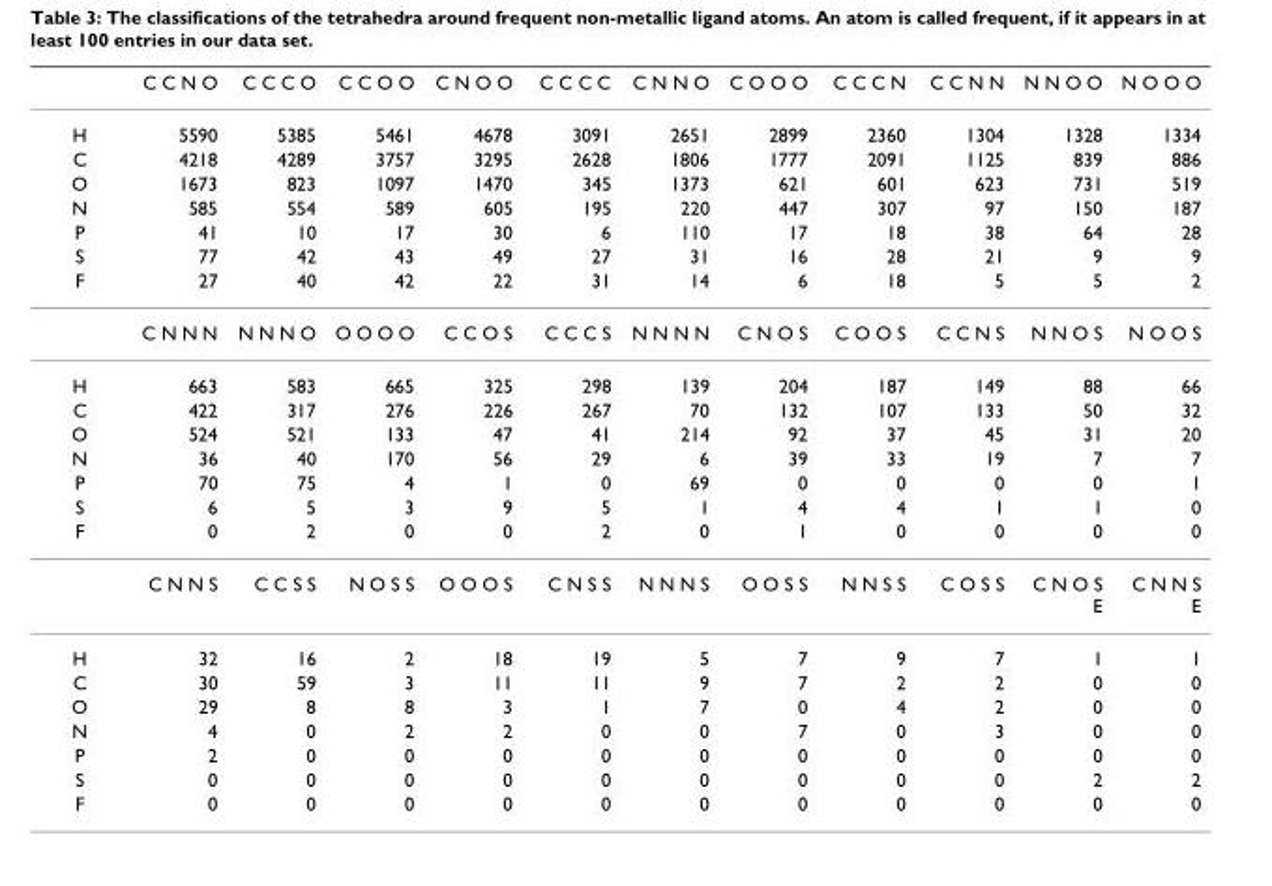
<table><thead><tr><td></td><td>C C N O</td><td>C C C O</td><td>C C O O</td><td>C N O O</td><td>C C C C</td><td>C N N O</td><td>C O O O</td><td>C C C N</td><td>C C N N</td><td>N N O O</td><td>N O O O</td></tr></thead><tbody><tr><td>H</td><td>5590</td><td>5385</td><td>5461</td><td>4678</td><td>3091</td><td>2651</td><td>2899</td><td>2360</td><td>1304</td><td>1328</td><td>1334</td></tr><tr><td>C</td><td>4218</td><td>4289</td><td>3757</td><td>3295</td><td>2628</td><td>1806</td><td>1777</td><td>2091</td><td>1125</td><td>839</td><td>886</td></tr><tr><td>O</td><td>1673</td><td>823</td><td>1097</td><td>1470</td><td>345</td><td>1373</td><td>621</td><td>601</td><td>623</td><td>731</td><td>519</td></tr><tr><td>N</td><td>585</td><td>554</td><td>589</td><td>605</td><td>195</td><td>220</td><td>447</td><td>307</td><td>97</td><td>150</td><td>187</td></tr><tr><td>P</td><td>41</td><td>10</td><td>17</td><td>30</td><td>6</td><td>110</td><td>17</td><td>18</td><td>38</td><td>64</td><td>28</td></tr><tr><td>S</td><td>77</td><td>42</td><td>43</td><td>49</td><td>27</td><td>31</td><td>16</td><td>28</td><td>21</td><td>9</td><td>9</td></tr><tr><td rowspan="2">F</td><td>27</td><td>40</td><td>42</td><td>22</td><td>31</td><td>14</td><td>6</td><td>18</td><td>5</td><td>5</td><td>2</td></tr><tr><td>C N N N</td><td>N N N O</td><td>O O O O</td><td>C C O S</td><td>C C C S</td><td>N N N N</td><td>C N O S</td><td>C O O S</td><td>C C N S</td><td>N N O S</td><td>N O O S</td></tr><tr><td>H</td><td>663</td><td>583</td><td>665</td><td>325</td><td>298</td><td>139</td><td>204</td><td>187</td><td>149</td><td>88</td><td>66</td></tr><tr><td>C</td><td>422</td><td>317</td><td>276</td><td>226</td><td>267</td><td>70</td><td>132</td><td>107</td><td>133</td><td>50</td><td>32</td></tr><tr><td>O</td><td>524</td><td>521</td><td>133</td><td>47</td><td>41</td><td>214</td><td>92</td><td>37</td><td>45</td><td>31</td><td>20</td></tr><tr><td>N</td><td>36</td><td>40</td><td>170</td><td>56</td><td>29</td><td>6</td><td>39</td><td>33</td><td>19</td><td>7</td><td>7</td></tr><tr><td>P</td><td>70</td><td>75</td><td>4</td><td>1</td><td>0</td><td>69</td><td>0</td><td>0</td><td>0</td><td>0</td><td>1</td></tr><tr><td>S</td><td>6</td><td>5</td><td>3</td><td>9</td><td>5</td><td>1</td><td>4</td><td>4</td><td>1</td><td>1</td><td>0</td></tr><tr><td rowspan="2">F</td><td>0</td><td>2</td><td>0</td><td>0</td><td>2</td><td>0</td><td>1</td><td>0</td><td>0</td><td>0</td><td>0</td></tr><tr><td>C N N S</td><td>C C S S</td><td>N O S S</td><td>O O O S</td><td>C N S S</td><td>N N N S</td><td>O O S S</td><td>N N S S</td><td>C O S S</td><td>C N O S E</td><td>C N N S E</td></tr><tr><td>H</td><td>32</td><td>16</td><td>2</td><td>18</td><td>19</td><td>5</td><td>7</td><td>9</td><td>7</td><td>1</td><td>1</td></tr><tr><td>C</td><td>30</td><td>59</td><td>3</td><td>11</td><td>11</td><td>9</td><td>7</td><td>2</td><td>2</td><td>0</td><td>0</td></tr><tr><td>O</td><td>29</td><td>8</td><td>8</td><td>3</td><td>1</td><td>7</td><td>0</td><td>4</td><td>2</td><td>0</td><td>0</td></tr><tr><td>N</td><td>4</td><td>0</td><td>2</td><td>2</td><td>0</td><td>0</td><td>7</td><td>0</td><td>3</td><td>0</td><td>0</td></tr><tr><td>P</td><td>2</td><td>0</td><td>0</td><td>0</td><td>0</td><td>0</td><td>0</td><td>0</td><td>0</td><td>0</td><td>0</td></tr><tr><td>S</td><td>0</td><td>0</td><td>0</td><td>0</td><td>0</td><td>0</td><td>0</td><td>0</td><td>0</td><td>2</td><td>2</td></tr><tr><td>F</td><td>0</td><td>0</td><td>0</td><td>0</td><td>0</td><td>0</td><td>0</td><td>0</td><td>0</td><td>0</td><td>0</td></tr></tbody></table>